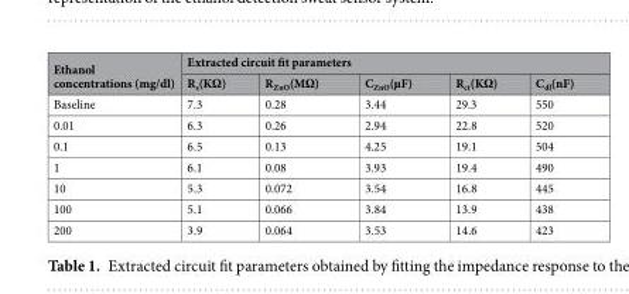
<table><thead><tr><td rowspan="2">Ethanol concentrations (mg/dl)</td><td colspan="5">Extracted circuit fit parameters</td></tr><tr><td>R<sub>s</sub>(KΩ)</td><td>R<sub>ZnO</sub>(MΩ)</td><td>C<sub>ZnO</sub>(µF)</td><td>R<sub>ct</sub>(KΩ)</td><td>C<sub>dl</sub>(nF)</td></tr></thead><tbody><tr><td>Baseline</td><td>7.3</td><td>0.28</td><td>3.44</td><td>29.3</td><td>550</td></tr><tr><td>0.01</td><td>6.3</td><td>0.26</td><td>2.94</td><td>22.8</td><td>520</td></tr><tr><td>0.1</td><td>6.5</td><td>0.13</td><td>4.25</td><td>19.1</td><td>504</td></tr><tr><td>1</td><td>6.1</td><td>0.08</td><td>3.93</td><td>19.4</td><td>490</td></tr><tr><td>10</td><td>5.3</td><td>0.072</td><td>3.54</td><td>16.8</td><td>445</td></tr><tr><td>100</td><td>5.1</td><td>0.066</td><td>3.84</td><td>13.9</td><td>438</td></tr><tr><td>200</td><td>3.9</td><td>0.064</td><td>3.53</td><td>14.6</td><td>423</td></tr></tbody></table>